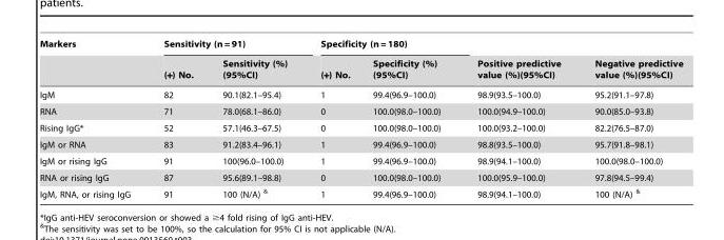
<table><thead><tr><td rowspan="2">Markers</td><td colspan="2">Sensitivity (n = 91)</td><td colspan="2">Specificity (n = 180)</td><td rowspan="2">Positive predictive value (%)(95%CI)</td><td rowspan="2">Negative predictive value (%)(95%CI)</td></tr><tr><td>(+) No.</td><td>Sensitivity (%) (95%CI)</td><td>(+) No.</td><td>Specificity (%) (95%CI)</td></tr></thead><tbody><tr><td>IgM</td><td>82</td><td>90.1(82.1–95.4)</td><td>1</td><td>99.4(96.9–100.0)</td><td>98.9(93.5–100.0)</td><td>95.2(91.1–97.8)</td></tr><tr><td>RNA</td><td>71</td><td>78.0(68.1–86.0)</td><td>0</td><td>100.0(98.0–100.0)</td><td>100.0(94.9–100.0)</td><td>90.0(85.0–93.8)</td></tr><tr><td>Rising IgG*</td><td>52</td><td>57.1(46.3–67.5)</td><td>0</td><td>100.0(98.0–100.0)</td><td>100.0(93.2–100.0)</td><td>82.2(76.5–87.0)</td></tr><tr><td>IgM or RNA</td><td>83</td><td>91.2(83.4–96.1)</td><td>1</td><td>99.4(96.9–100.0)</td><td>98.8(93.5–100.0)</td><td>95.7(91.8–98.1)</td></tr><tr><td>IgM or rising IgG</td><td>91</td><td>100(96.0–100.0)</td><td>1</td><td>99.4(96.9–100.0)</td><td>98.9(94.1–100.0)</td><td>100.0(98.0–100.0)</td></tr><tr><td>RNA or rising IgG</td><td>87</td><td>95.6(89.1–98.8)</td><td>0</td><td>100.0(98.0–100.0)</td><td>100.0(95.9–100.0)</td><td>97.8(94.5–99.4)</td></tr><tr><td>IgM, RNA, or rising IgG</td><td>91</td><td>100 (N/A) &amp;</td><td>1</td><td>99.4(96.9–100.0)</td><td>98.9(94.1–100.0)</td><td>100 (N/A) &amp;</td></tr></tbody></table>